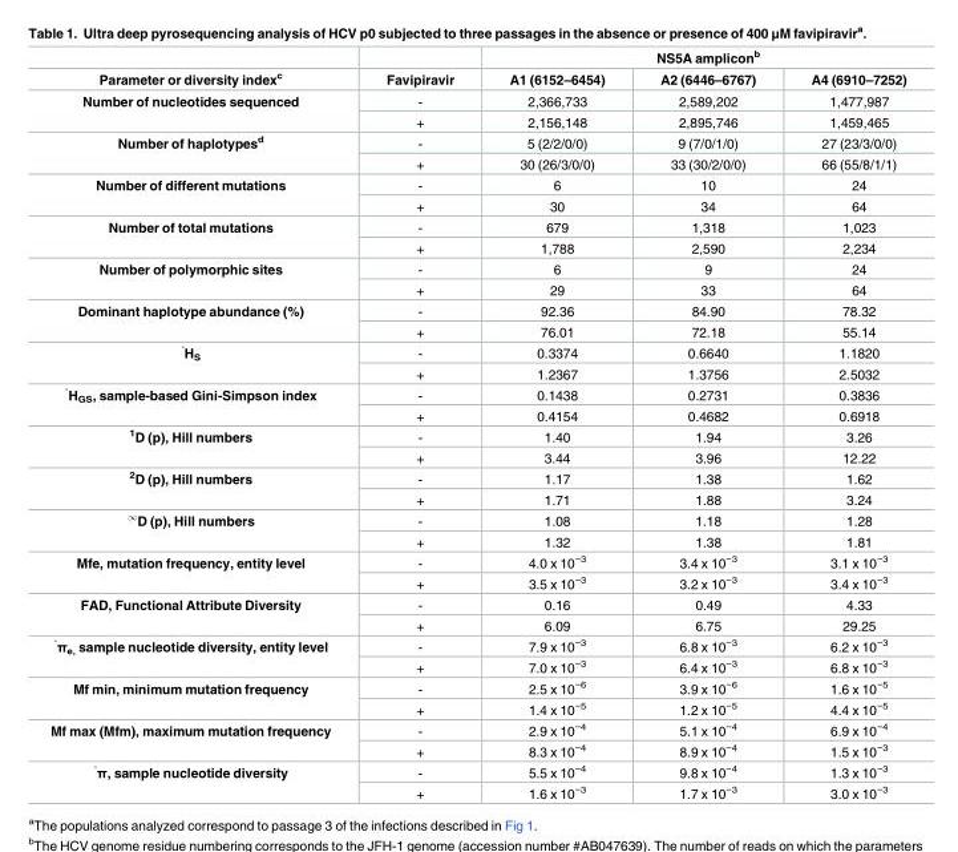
<table><thead><tr><td rowspan="2">Parameter or diversity index<sup>c</sup></td><td rowspan="2">Favipiravir</td><td colspan="3">NS5A amplicon<sup>b</sup></td></tr><tr><td>A1 (6152–6454)</td><td>A2 (6446–6767)</td><td>A4 (6910–7252)</td></tr></thead><tbody><tr><td rowspan="2">Number of nucleotides sequenced</td><td>-</td><td>2,366,733</td><td>2,589,202</td><td>1,477,987</td></tr><tr><td>+</td><td>2,156,148</td><td>2,895,746</td><td>1,459,465</td></tr><tr><td rowspan="2">Number of haplotypes<sup>d</sup></td><td>-</td><td>5 (2/2/0/0)</td><td>9 (7/0/1/0)</td><td>27 (23/3/0/0)</td></tr><tr><td>+</td><td>30 (26/3/0/0)</td><td>33 (30/2/0/0)</td><td>66 (55/8/1/1)</td></tr><tr><td rowspan="2">Number of different mutations</td><td>-</td><td>6</td><td>10</td><td>24</td></tr><tr><td>+</td><td>30</td><td>34</td><td>64</td></tr><tr><td rowspan="2">Number of total mutations</td><td>-</td><td>679</td><td>1,318</td><td>1,023</td></tr><tr><td>+</td><td>1,788</td><td>2,590</td><td>2,234</td></tr><tr><td rowspan="2">Number of polymorphic sites</td><td>-</td><td>6</td><td>9</td><td>24</td></tr><tr><td>+</td><td>29</td><td>33</td><td>64</td></tr><tr><td rowspan="2">Dominant haplotype abundance (%)</td><td>-</td><td>92.36</td><td>84.90</td><td>78.32</td></tr><tr><td>+</td><td>76.01</td><td>72.18</td><td>55.14</td></tr><tr><td rowspan="2"><sup>˄</sup>H<sub>S</sub></td><td>-</td><td>0.3374</td><td>0.6640</td><td>1.1820</td></tr><tr><td>+</td><td>1.2367</td><td>1.3756</td><td>2.5032</td></tr><tr><td rowspan="2"><sup>˄</sup>H<sub>GS</sub>, sample-based Gini-Simpson index</td><td>-</td><td>0.1438</td><td>0.2731</td><td>0.3836</td></tr><tr><td>+</td><td>0.4154</td><td>0.4682</td><td>0.6918</td></tr><tr><td rowspan="2"><sup>1</sup>D (p), Hill numbers</td><td>-</td><td>1.40</td><td>1.94</td><td>3.26</td></tr><tr><td>+</td><td>3.44</td><td>3.96</td><td>12.22</td></tr><tr><td rowspan="2"><sup>2</sup>D (p), Hill numbers</td><td>-</td><td>1.17</td><td>1.38</td><td>1.62</td></tr><tr><td>+</td><td>1.71</td><td>1.88</td><td>3.24</td></tr><tr><td rowspan="2"><sup>∞</sup>D (p), Hill numbers</td><td>-</td><td>1.08</td><td>1.18</td><td>1.28</td></tr><tr><td>+</td><td>1.32</td><td>1.38</td><td>1.81</td></tr><tr><td rowspan="2">Mfe, mutation frequency, entity level</td><td>-</td><td>4.0 x 10<sup>−3</sup></td><td>3.4 x 10<sup>−3</sup></td><td>3.1 x 10<sup>−3</sup></td></tr><tr><td>+</td><td>3.5 x 10<sup>−3</sup></td><td>3.2 x 10<sup>−3</sup></td><td>3.4 x 10<sup>−3</sup></td></tr><tr><td rowspan="2">FAD, Functional Attribute Diversity</td><td>-</td><td>0.16</td><td>0.49</td><td>4.33</td></tr><tr><td>+</td><td>6.09</td><td>6.75</td><td>29.25</td></tr><tr><td rowspan="2"><sup>˄</sup>π<sub>e,</sub> sample nucleotide diversity, entity level</td><td>-</td><td>7.9 x 10<sup>−3</sup></td><td>6.8 x 10<sup>−3</sup></td><td>6.2 x 10<sup>−3</sup></td></tr><tr><td>+</td><td>7.0 x 10<sup>−3</sup></td><td>6.4 x 10<sup>−3</sup></td><td>6.8 x 10<sup>−3</sup></td></tr><tr><td rowspan="2">Mf min, minimum mutation frequency</td><td>-</td><td>2.5 x 10<sup>−6</sup></td><td>3.9 x 10<sup>−6</sup></td><td>1.6 x 10<sup>−5</sup></td></tr><tr><td>+</td><td>1.4 x 10<sup>−5</sup></td><td>1.2 x 10<sup>−5</sup></td><td>4.4 x 10<sup>−5</sup></td></tr><tr><td rowspan="2">Mf max (Mfm), maximum mutation frequency</td><td>-</td><td>2.9 x 10<sup>−4</sup></td><td>5.1 x 10<sup>−4</sup></td><td>6.9 x 10<sup>−4</sup></td></tr><tr><td>+</td><td>8.3 x 10<sup>−4</sup></td><td>8.9 x 10<sup>−4</sup></td><td>1.5 x 10<sup>−3</sup></td></tr><tr><td rowspan="2"><sup>˄</sup>π, sample nucleotide diversity</td><td>-</td><td>5.5 x 10<sup>−4</sup></td><td>9.8 x 10<sup>−4</sup></td><td>1.3 x 10<sup>−3</sup></td></tr><tr><td>+</td><td>1.6 x 10<sup>−3</sup></td><td>1.7 x 10<sup>−3</sup></td><td>3.0 x 10<sup>−3</sup></td></tr></tbody></table>